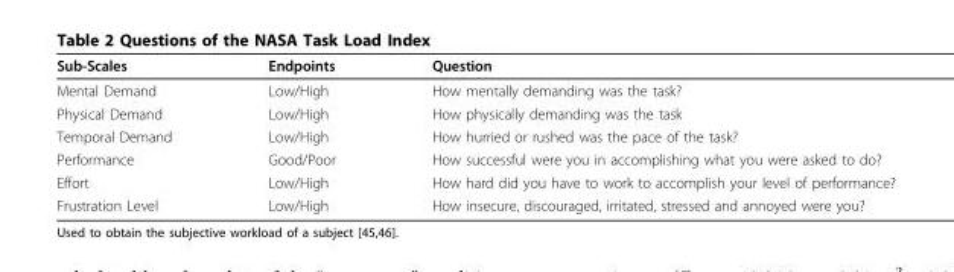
<table><thead><tr><td>Sub-Scales</td><td>Endpoints</td><td>Question</td></tr></thead><tbody><tr><td>Mental Demand</td><td>Low/High</td><td>How mentally demanding was the task?</td></tr><tr><td>Physical Demand</td><td>Low/High</td><td>How physically demanding was the task</td></tr><tr><td>Temporal Demand</td><td>Low/High</td><td>How hurried or rushed was the pace of the task?</td></tr><tr><td>Performance</td><td>Good/Poor</td><td>How successful were you in accomplishing what you were asked to do?</td></tr><tr><td>Effort</td><td>Low/High</td><td>How hard did you have to work to accomplish your level of performance?</td></tr><tr><td>Frustration Level</td><td>Low/High</td><td>How insecure, discouraged, irritated, stressed and annoyed were you?</td></tr></tbody></table>